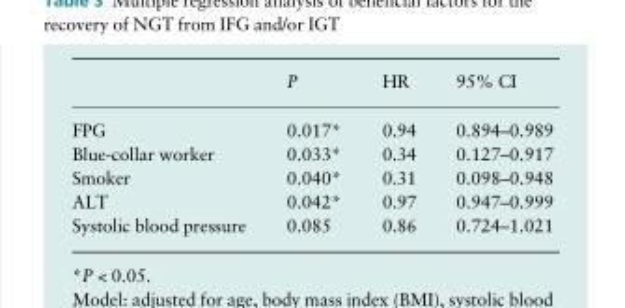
<table><thead><tr><td></td><td>P</td><td>HR</td><td>95% CI</td></tr></thead><tbody><tr><td>FPG</td><td>0.017*</td><td>0.94</td><td>0.894–0.989</td></tr><tr><td>Blue-collar worker</td><td>0.033*</td><td>0.34</td><td>0.127–0.917</td></tr><tr><td>Smoker</td><td>0.040*</td><td>0.31</td><td>0.098–0.948</td></tr><tr><td>ALT</td><td>0.042*</td><td>0.97</td><td>0.947–0.999</td></tr><tr><td>Systolic blood pressure</td><td>0.085</td><td>0.86</td><td>0.724–1.021</td></tr></tbody></table>